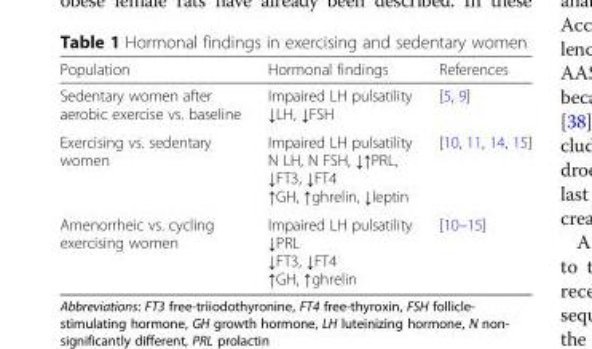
<table><thead><tr><td>Population</td><td>Hormonal findings</td><td>References</td></tr></thead><tbody><tr><td>Sedentary women after aerobic exercise vs. baseline</td><td>Impaired LH pulsatility ↓LH, ↓FSH</td><td>[5, 9]</td></tr><tr><td>Exercising vs. sedentary women</td><td>Impaired LH pulsatility N LH, N FSH, ↓↑PRL, ↓FT3, ↓FT4 ↑GH, ↑ghrelin, ↓leptin</td><td>[10, 11, 14, 15]</td></tr><tr><td>Amenorrheic vs. cycling exercising women</td><td>Impaired LH pulsatility ↓PRL ↓FT3, ↓FT4 ↑GH, ↑ghrelin</td><td>[10–15]</td></tr></tbody></table>